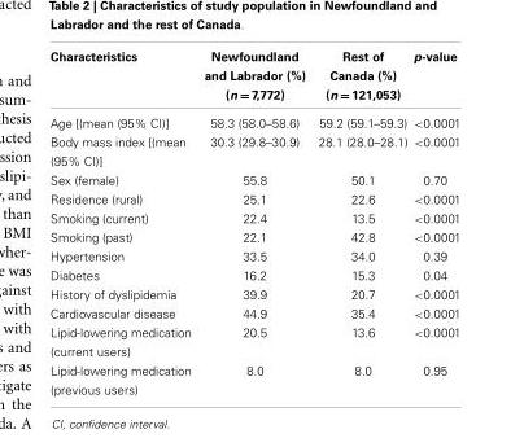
<table><thead><tr><td>Characteristics</td><td>Newfoundland and Labrador (%) (n = 7,772)</td><td>Rest of Canada (%) (n = 121,053)</td><td>p-value</td></tr></thead><tbody><tr><td>Age [(mean (95% CI)]</td><td>58.3 (58.0–58.6)</td><td>59.2 (59.1–59.3)</td><td>&lt;0.0001</td></tr><tr><td>Body mass index [(mean (95% CI)]</td><td>30.3 (29.8–30.9)</td><td>28.1 (28.0–28.1)</td><td>&lt;0.0001</td></tr><tr><td>Sex (female)</td><td>55.8</td><td>50.1</td><td>0.70</td></tr><tr><td>Residence (rural)</td><td>25.1</td><td>22.6</td><td>&lt;0.0001</td></tr><tr><td>Smoking (current)</td><td>22.4</td><td>13.5</td><td>&lt;0.0001</td></tr><tr><td>Smoking (past)</td><td>22.1</td><td>42.8</td><td>&lt;0.0001</td></tr><tr><td>Hypertension</td><td>33.5</td><td>34.0</td><td>0.39</td></tr><tr><td>Diabetes</td><td>16.2</td><td>15.3</td><td>0.04</td></tr><tr><td>History of dyslipidemia</td><td>39.9</td><td>20.7</td><td>&lt;0.0001</td></tr><tr><td>Cardiovascular disease</td><td>44.9</td><td>35.4</td><td>&lt;0.0001</td></tr><tr><td>Lipid-lowering medication (current users)</td><td>20.5</td><td>13.6</td><td>&lt;0.0001</td></tr><tr><td>Lipid-lowering medication (previous users)</td><td>8.0</td><td>8.0</td><td>0.95</td></tr></tbody></table>